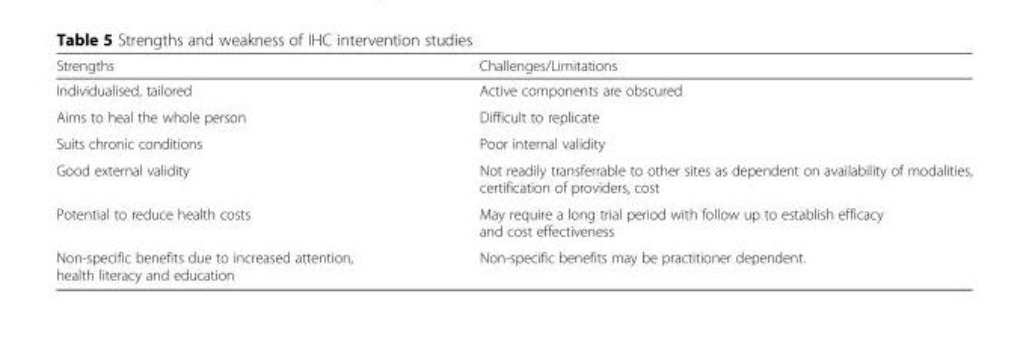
<table><thead><tr><td>Strengths</td><td>Challenges/Limitations</td></tr></thead><tbody><tr><td>Individualised, tailored</td><td>Active components are obscured</td></tr><tr><td>Aims to heal the whole person</td><td>Difficult to replicate</td></tr><tr><td>Suits chronic conditions</td><td>Poor internal validity</td></tr><tr><td>Good external validity</td><td>Not readily transferrable to other sites as dependent on availability of modalities, certification of providers, cost</td></tr><tr><td>Potential to reduce health costs</td><td>May require a long trial period with follow up to establish efficacy and cost effectiveness</td></tr><tr><td>Non-specific benefits due to increased attention, health literacy and education</td><td>Non-specific benefits may be practitioner dependent.</td></tr></tbody></table>